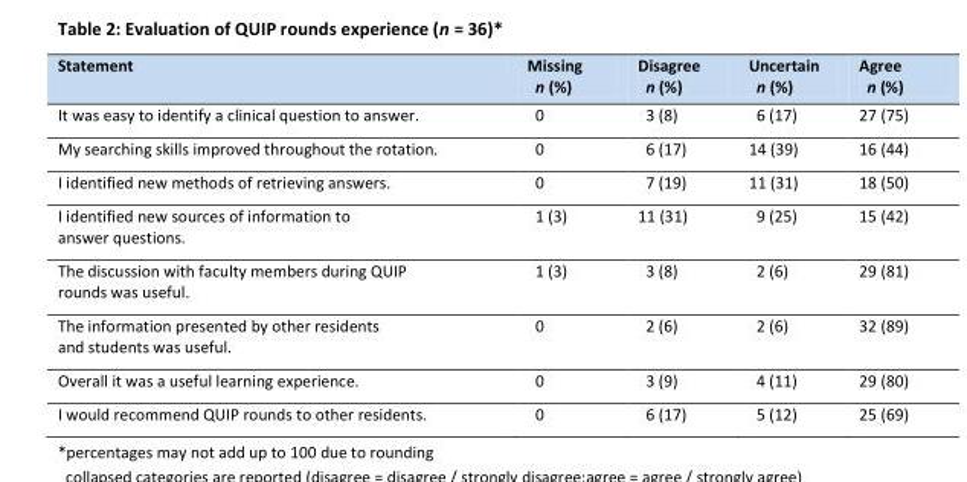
<table><thead><tr><td>Statement</td><td>Missing n (%)</td><td>Disagree n (%)</td><td>Uncertain n (%)</td><td>Agree n (%)</td></tr></thead><tbody><tr><td>It was easy to identify a clinical question to answer.</td><td>0</td><td>3 (8)</td><td>6 (17)</td><td>27 (75)</td></tr><tr><td>My searching skills improved throughout the rotation.</td><td>0</td><td>6 (17)</td><td>14 (39)</td><td>16 (44)</td></tr><tr><td>I identified new methods of retrieving answers.</td><td>0</td><td>7 (19)</td><td>11 (31)</td><td>18 (50)</td></tr><tr><td>I identified new sources of information to answer questions.</td><td>1 (3)</td><td>11 (31)</td><td>9 (25)</td><td>15 (42)</td></tr><tr><td>The discussion with faculty members during QUIP rounds was useful.</td><td>1 (3)</td><td>3 (8)</td><td>2 (6)</td><td>29 (81)</td></tr><tr><td>The information presented by other residents and students was useful.</td><td>0</td><td>2 (6)</td><td>2 (6)</td><td>32 (89)</td></tr><tr><td>Overall it was a useful learning experience.</td><td>0</td><td>3 (9)</td><td>4 (11)</td><td>29 (80)</td></tr><tr><td>I would recommend QUIP rounds to other residents.</td><td>0</td><td>6 (17)</td><td>5 (12)</td><td>25 (69)</td></tr></tbody></table>